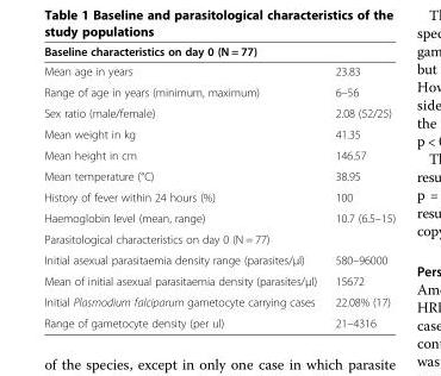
<table><thead><tr><td>Baseline characteristics on day 0 (N = 77)</td><td></td></tr></thead><tbody><tr><td>Mean age in years</td><td>23.83</td></tr><tr><td>Range of age in years (minimum, maximum)</td><td>6–56</td></tr><tr><td>Sex ratio (male/female)</td><td>2.08 (52/25)</td></tr><tr><td>Mean weight in kg</td><td>41.35</td></tr><tr><td>Mean height in cm</td><td>146.57</td></tr><tr><td>Mean temperature (°C)</td><td>38.95</td></tr><tr><td>History of fever within 24 hours (%)</td><td>100</td></tr><tr><td>Haemoglobin level (mean, range)</td><td>10.7 (6.5–15)</td></tr><tr><td colspan="2">Parasitological characteristics on day 0 (N = 77)</td></tr><tr><td>Initial asexual parasitaemia density range (parasites/μl)</td><td>580–96000</td></tr><tr><td>Mean of initial asexual parasitaemia density (parasites/μl)</td><td>15672</td></tr><tr><td>Initial Plasmodium falciparum gametocyte carrying cases</td><td>22.08% (17)</td></tr><tr><td>Range of gametocyte density (per ul)</td><td>21–4316</td></tr></tbody></table>